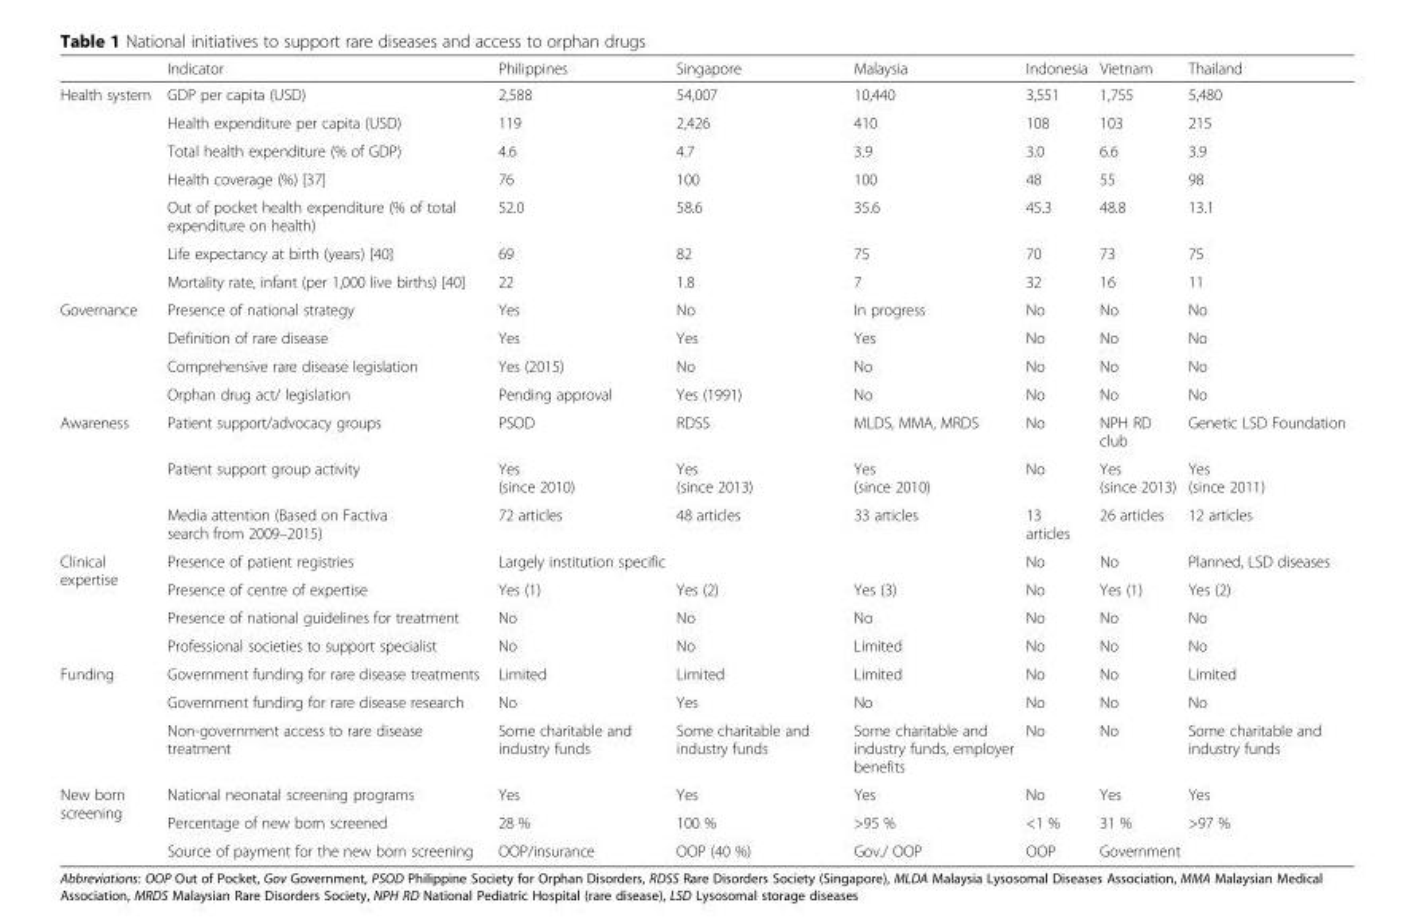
<table><thead><tr><td></td><td>Indicator</td><td>Philippines</td><td>Singapore</td><td>Malaysia</td><td>Indonesia</td><td>Vietnam</td><td>Thailand</td></tr></thead><tbody><tr><td rowspan="7">Health system</td><td>GDP per capita (USD)</td><td>2,588</td><td>54,007</td><td>10,440</td><td>3,551</td><td>1,755</td><td>5,480</td></tr><tr><td>Health expenditure per capita (USD)</td><td>119</td><td>2,426</td><td>410</td><td>108</td><td>103</td><td>215</td></tr><tr><td>Total health expenditure (% of GDP)</td><td>4.6</td><td>4.7</td><td>3.9</td><td>3.0</td><td>6.6</td><td>3.9</td></tr><tr><td>Health coverage (%) [37]</td><td>76</td><td>100</td><td>100</td><td>48</td><td>55</td><td>98</td></tr><tr><td>Out of pocket health expenditure (% of total expenditure on health)</td><td>52.0</td><td>58.6</td><td>35.6</td><td>45.3</td><td>48.8</td><td>13.1</td></tr><tr><td>Life expectancy at birth (years) [40]</td><td>69</td><td>82</td><td>75</td><td>70</td><td>73</td><td>75</td></tr><tr><td>Mortality rate, infant (per 1,000 live births) [40]</td><td>22</td><td>1.8</td><td>7</td><td>32</td><td>16</td><td>11</td></tr><tr><td rowspan="4">Governance</td><td>Presence of national strategy</td><td>Yes</td><td>No</td><td>In progress</td><td>No</td><td>No</td><td>No</td></tr><tr><td>Definition of rare disease</td><td>Yes</td><td>Yes</td><td>Yes</td><td>No</td><td>No</td><td>No</td></tr><tr><td>Comprehensive rare disease legislation</td><td>Yes (2015)</td><td>No</td><td>No</td><td>No</td><td>No</td><td>No</td></tr><tr><td>Orphan drug act/ legislation</td><td>Pending approval</td><td>Yes (1991)</td><td>No</td><td>No</td><td>No</td><td>No</td></tr><tr><td rowspan="3">Awareness</td><td>Patient support/advocacy groups</td><td>PSOD</td><td>RDSS</td><td>MLDS, MMA, MRDS</td><td>No</td><td>NPH RD club</td><td>Genetic LSD Foundation</td></tr><tr><td>Patient support group activity</td><td>Yes (since 2010)</td><td>Yes (since 2013)</td><td>Yes (since 2010)</td><td>No</td><td>Yes (since 2013)</td><td>Yes (since 2011)</td></tr><tr><td>Media attention (Based on Factiva search from 2009–2015)</td><td>72 articles</td><td>48 articles</td><td>33 articles</td><td>13 articles</td><td>26 articles</td><td>12 articles</td></tr><tr><td rowspan="4">Clinical expertise</td><td>Presence of patient registries</td><td colspan="3">Largely institution specific</td><td>No</td><td>No</td><td>Planned, LSD diseases</td></tr><tr><td>Presence of centre of expertise</td><td>Yes (1)</td><td>Yes (2)</td><td>Yes (3)</td><td>No</td><td>Yes (1)</td><td>Yes (2)</td></tr><tr><td>Presence of national guidelines for treatment</td><td>No</td><td>No</td><td>No</td><td>No</td><td>No</td><td>No</td></tr><tr><td>Professional societies to support specialist</td><td>No</td><td>No</td><td>Limited</td><td>No</td><td>No</td><td>No</td></tr><tr><td rowspan="3">Funding</td><td>Government funding for rare disease treatments</td><td>Limited</td><td>Limited</td><td>Limited</td><td>No</td><td>No</td><td>Limited</td></tr><tr><td>Government funding for rare disease research</td><td>No</td><td>Yes</td><td>No</td><td>No</td><td>No</td><td>No</td></tr><tr><td>Non-government access to rare disease treatment</td><td>Some charitable and industry funds</td><td>Some charitable and industry funds</td><td>Some charitable and industry funds, employer benefits</td><td>No</td><td>No</td><td>Some charitable and industry funds</td></tr><tr><td rowspan="3">New born screening</td><td>National neonatal screening programs</td><td>Yes</td><td>Yes</td><td>Yes</td><td>No</td><td>Yes</td><td>Yes</td></tr><tr><td>Percentage of new born screened</td><td>28 %</td><td>100 %</td><td>&gt;95 %</td><td>&lt;1 %</td><td>31 %</td><td>&gt;97 %</td></tr><tr><td>Source of payment for the new born screening</td><td>OOP/insurance</td><td>OOP (40 %)</td><td>Gov./ OOP</td><td>OOP</td><td colspan="2">Government</td></tr></tbody></table>